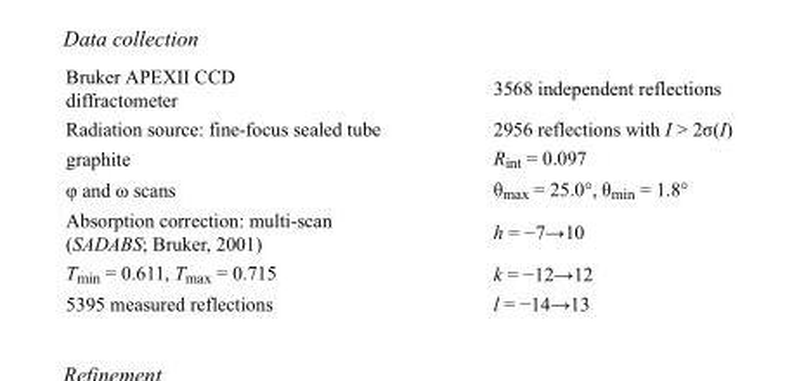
<table><tbody><tr><td>Bruker APEXII CCD diffractometer</td><td>3568 independent reflections</td></tr><tr><td>Radiation source: fine-focus sealed tube</td><td>2956 reflections with I &gt; 2σ(I)</td></tr><tr><td>graphite</td><td>R<sub>int</sub> = 0.097</td></tr><tr><td>φ and ω scans</td><td>θ<sub>max</sub> = 25.0°, θ<sub>min</sub> = 1.8°</td></tr><tr><td>Absorption correction: multi-scan (SADABS; Bruker, 2001)</td><td>h = −7→10</td></tr><tr><td>T<sub>min</sub> = 0.611, T<sub>max</sub> = 0.715</td><td>k = −12→12</td></tr><tr><td>5395 measured reflections</td><td>l = −14→13</td></tr></tbody></table>